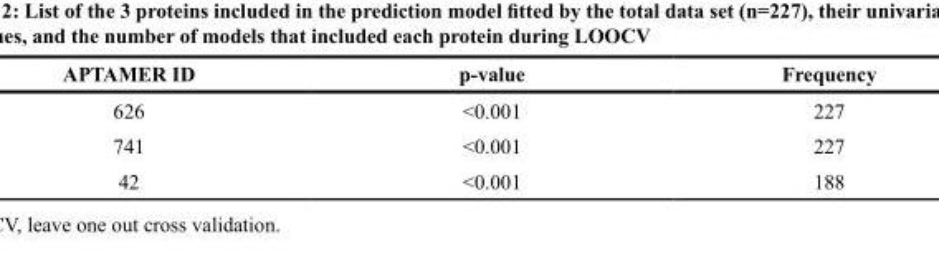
<table><thead><tr><td>APTAMER ID</td><td>p-value</td><td>Frequency</td></tr></thead><tbody><tr><td>626</td><td>&lt;0.001</td><td>227</td></tr><tr><td>741</td><td>&lt;0.001</td><td>227</td></tr><tr><td>42</td><td>&lt;0.001</td><td>188</td></tr></tbody></table>